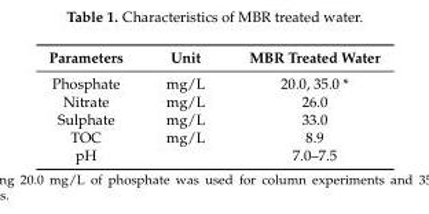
<table><thead><tr><td>Parameters</td><td>Unit</td><td>MBR Treated Water</td></tr></thead><tbody><tr><td>Phosphate</td><td>mg/L</td><td>20.0, 35.0 *</td></tr><tr><td>Nitrate</td><td>mg/L</td><td>26.0</td></tr><tr><td>Sulphate</td><td>mg/L</td><td>33.0</td></tr><tr><td>TOC</td><td>mg/L</td><td>8.9</td></tr><tr><td>pH</td><td></td><td>7.0–7.5</td></tr></tbody></table>